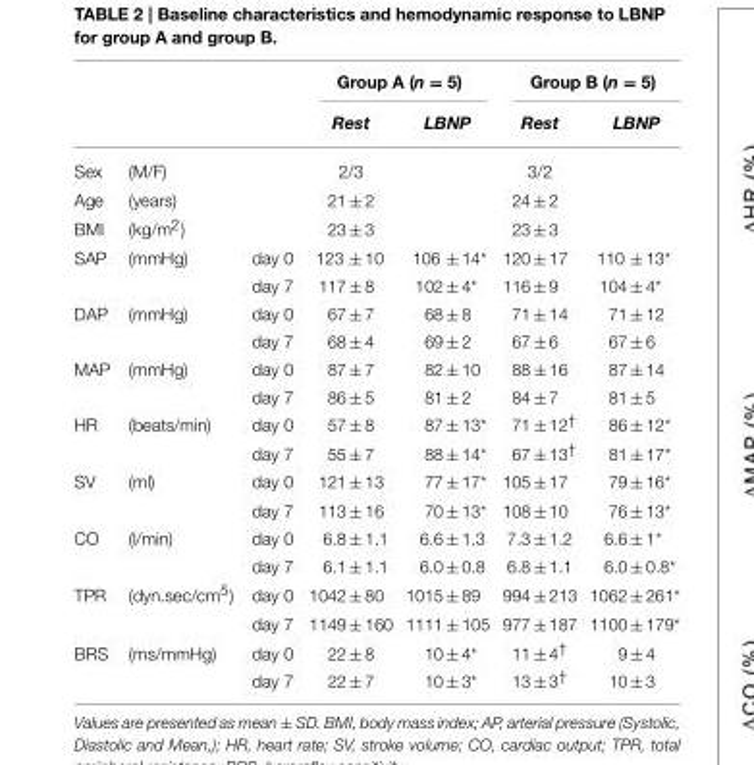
<table><thead><tr><td rowspan="2"></td><td rowspan="2"></td><td rowspan="2"></td><td colspan="2">Group A (n = 5)</td><td colspan="2">Group B (n = 5)</td></tr><tr><td>Rest</td><td>LBNP</td><td>Rest</td><td>LBNP</td></tr></thead><tbody><tr><td>Sex</td><td>(M/F)</td><td></td><td>2/3</td><td></td><td>3/2</td><td></td></tr><tr><td>Age</td><td>(years)</td><td></td><td>21 ± 2</td><td></td><td>24 ± 2</td><td></td></tr><tr><td>BMI</td><td>(kg/m<sup>2</sup>)</td><td></td><td>23 ± 3</td><td></td><td>23 ± 3</td><td></td></tr><tr><td rowspan="2">SAP</td><td>(mmHg)</td><td>day 0</td><td>123 ± 10</td><td>106 ± 14*</td><td>120 ± 17</td><td>110 ± 13*</td></tr><tr><td></td><td>day 7</td><td>117 ± 8</td><td>102 ± 4*</td><td>116 ± 9</td><td>104 ± 4*</td></tr><tr><td rowspan="2">DAP</td><td>(mmHg)</td><td>day 0</td><td>67 ± 7</td><td>68 ± 8</td><td>71 ± 14</td><td>71 ± 12</td></tr><tr><td></td><td>day 7</td><td>68 ± 4</td><td>69 ± 2</td><td>67 ± 6</td><td>67 ± 6</td></tr><tr><td rowspan="2">MAP</td><td>(mmHg)</td><td>day 0</td><td>87 ± 7</td><td>82 ± 10</td><td>88 ± 16</td><td>87 ± 14</td></tr><tr><td></td><td>day 7</td><td>86 ± 5</td><td>81 ± 2</td><td>84 ± 7</td><td>81 ± 5</td></tr><tr><td rowspan="2">HR</td><td>(beats/min)</td><td>day 0</td><td>57 ± 8</td><td>87 ± 13*</td><td>71 ± 12<sup>†</sup></td><td>86 ± 12*</td></tr><tr><td></td><td>day 7</td><td>55 ± 7</td><td>88 ± 14*</td><td>67 ± 13<sup>†</sup></td><td>81 ± 17*</td></tr><tr><td rowspan="2">SV</td><td>(ml)</td><td>day 0</td><td>121 ± 13</td><td>77 ± 17*</td><td>105 ± 17</td><td>79 ± 16*</td></tr><tr><td></td><td>day 7</td><td>113 ± 16</td><td>70 ± 13*</td><td>108 ± 10</td><td>76 ± 13*</td></tr><tr><td rowspan="2">CO</td><td>(l/min)</td><td>day 0</td><td>6.8 ± 1.1</td><td>6.6 ± 1.3</td><td>7.3 ± 1.2</td><td>6.6 ± 1*</td></tr><tr><td></td><td>day 7</td><td>6.1 ± 1.1</td><td>6.0 ± 0.8</td><td>6.8 ± 1.1</td><td>6.0 ± 0.8*</td></tr><tr><td rowspan="2">TPR</td><td>(dyn.sec/cm<sup>5</sup>)</td><td>day 0</td><td>1042 ± 80</td><td>1015 ± 89</td><td>994 ± 213</td><td>1062 ± 261*</td></tr><tr><td></td><td>day 7</td><td>1149 ± 160</td><td>1111 ± 105</td><td>977 ± 187</td><td>1100 ± 179*</td></tr><tr><td rowspan="2">BRS</td><td>(ms/mmHg)</td><td>day 0</td><td>22 ± 8</td><td>10 ± 4*</td><td>11 ± 4<sup>†</sup></td><td>9 ± 4</td></tr><tr><td></td><td>day 7</td><td>22 ± 7</td><td>10 ± 3*</td><td>13 ± 3<sup>†</sup></td><td>10 ± 3</td></tr></tbody></table>